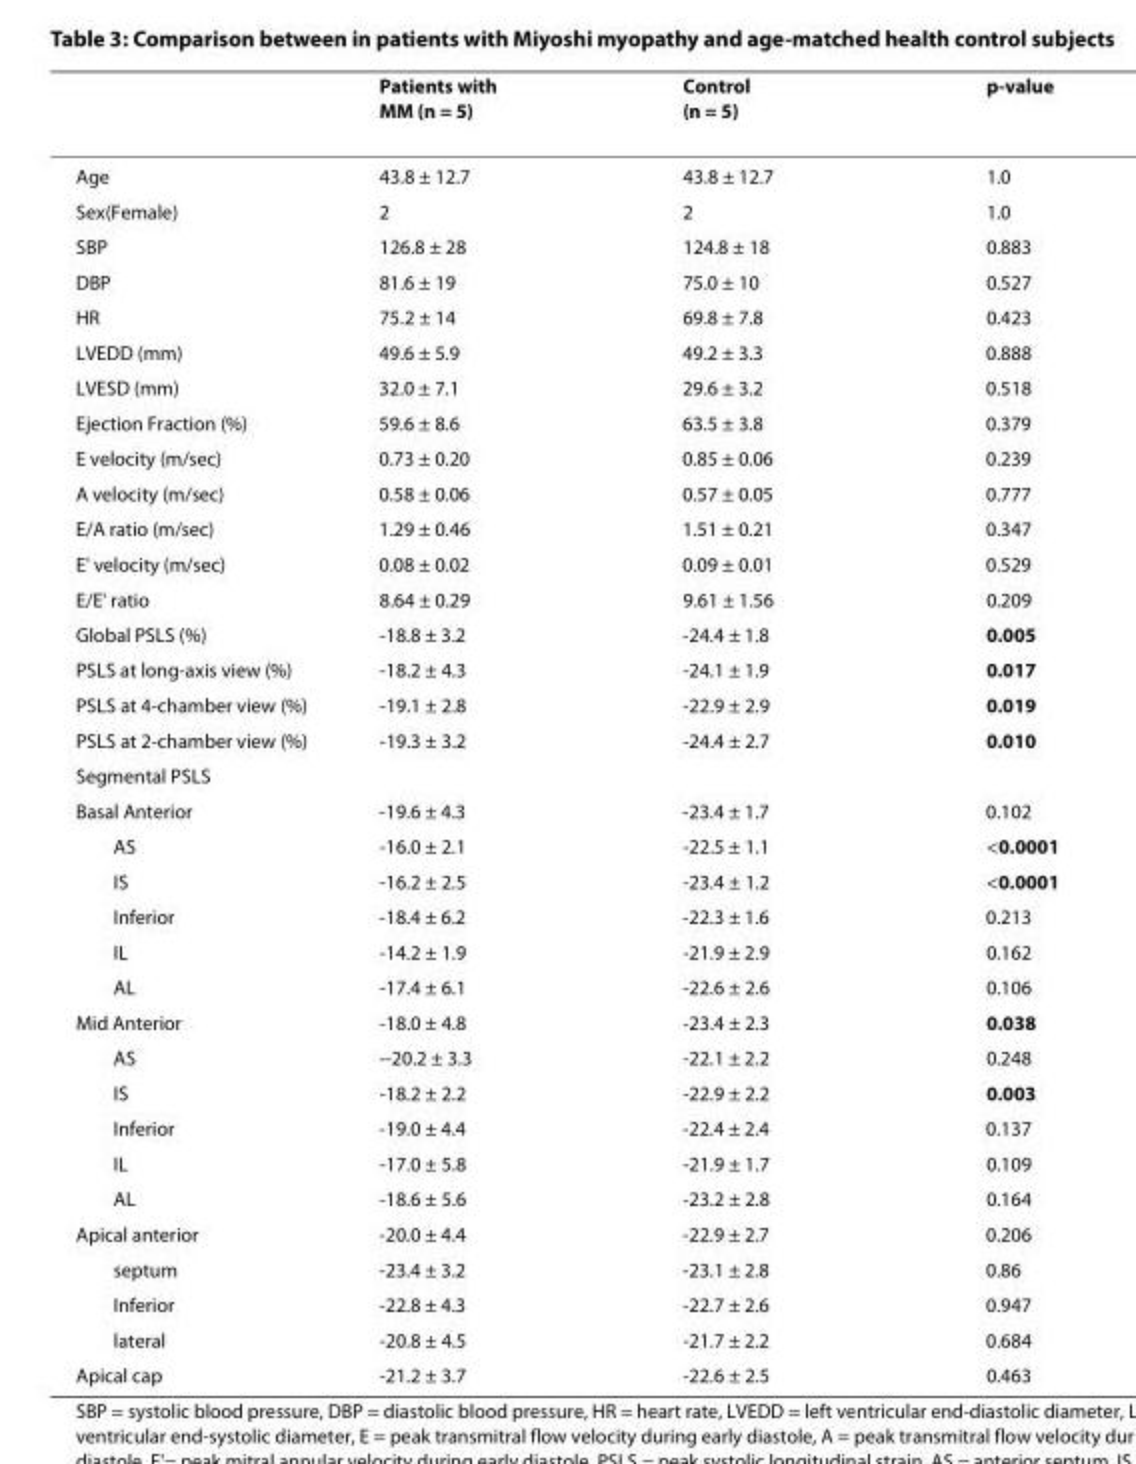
<table><thead><tr><td></td><td>Patients with MM (n = 5)</td><td>Control (n = 5)</td><td>p-value</td></tr></thead><tbody><tr><td>Age</td><td>43.8 ± 12.7</td><td>43.8 ± 12.7</td><td>1.0</td></tr><tr><td>Sex(Female)</td><td>2</td><td>2</td><td>1.0</td></tr><tr><td>SBP</td><td>126.8 ± 28</td><td>124.8 ± 18</td><td>0.883</td></tr><tr><td>DBP</td><td>81.6 ± 19</td><td>75.0 ± 10</td><td>0.527</td></tr><tr><td>HR</td><td>75.2 ± 14</td><td>69.8 ± 7.8</td><td>0.423</td></tr><tr><td>LVEDD (mm)</td><td>49.6 ± 5.9</td><td>49.2 ± 3.3</td><td>0.888</td></tr><tr><td>LVESD (mm)</td><td>32.0 ± 7.1</td><td>29.6 ± 3.2</td><td>0.518</td></tr><tr><td>Ejection Fraction (%)</td><td>59.6 ± 8.6</td><td>63.5 ± 3.8</td><td>0.379</td></tr><tr><td>E velocity (m/sec)</td><td>0.73 ± 0.20</td><td>0.85 ± 0.06</td><td>0.239</td></tr><tr><td>A velocity (m/sec)</td><td>0.58 ± 0.06</td><td>0.57 ± 0.05</td><td>0.777</td></tr><tr><td>E/A ratio (m/sec)</td><td>1.29 ± 0.46</td><td>1.51 ± 0.21</td><td>0.347</td></tr><tr><td>E&#x27; velocity (m/sec)</td><td>0.08 ± 0.02</td><td>0.09 ± 0.01</td><td>0.529</td></tr><tr><td>E/E&#x27; ratio</td><td>8.64 ± 0.29</td><td>9.61 ± 1.56</td><td>0.209</td></tr><tr><td>Global PSLS (%)</td><td>-18.8 ± 3.2</td><td>-24.4 ± 1.8</td><td>0.005</td></tr><tr><td>PSLS at long-axis view (%)</td><td>-18.2 ± 4.3</td><td>-24.1 ± 1.9</td><td>0.017</td></tr><tr><td>PSLS at 4-chamber view (%)</td><td>-19.1 ± 2.8</td><td>-22.9 ± 2.9</td><td>0.019</td></tr><tr><td>PSLS at 2-chamber view (%)</td><td>-19.3 ± 3.2</td><td>-24.4 ± 2.7</td><td>0.010</td></tr><tr><td colspan="4">Segmental PSLS</td></tr><tr><td>Basal Anterior</td><td>-19.6 ± 4.3</td><td>-23.4 ± 1.7</td><td>0.102</td></tr><tr><td>AS</td><td>-16.0 ± 2.1</td><td>-22.5 ± 1.1</td><td>&lt;0.0001</td></tr><tr><td>IS</td><td>-16.2 ± 2.5</td><td>-23.4 ± 1.2</td><td>&lt;0.0001</td></tr><tr><td>Inferior</td><td>-18.4 ± 6.2</td><td>-22.3 ± 1.6</td><td>0.213</td></tr><tr><td>IL</td><td>-14.2 ± 1.9</td><td>-21.9 ± 2.9</td><td>0.162</td></tr><tr><td>AL</td><td>-17.4 ± 6.1</td><td>-22.6 ± 2.6</td><td>0.106</td></tr><tr><td>Mid Anterior</td><td>-18.0 ± 4.8</td><td>-23.4 ± 2.3</td><td>0.038</td></tr><tr><td>AS</td><td>--20.2 ± 3.3</td><td>-22.1 ± 2.2</td><td>0.248</td></tr><tr><td>IS</td><td>-18.2 ± 2.2</td><td>-22.9 ± 2.2</td><td>0.003</td></tr><tr><td>Inferior</td><td>-19.0 ± 4.4</td><td>-22.4 ± 2.4</td><td>0.137</td></tr><tr><td>IL</td><td>-17.0 ± 5.8</td><td>-21.9 ± 1.7</td><td>0.109</td></tr><tr><td>AL</td><td>-18.6 ± 5.6</td><td>-23.2 ± 2.8</td><td>0.164</td></tr><tr><td>Apical anterior</td><td>-20.0 ± 4.4</td><td>-22.9 ± 2.7</td><td>0.206</td></tr><tr><td>septum</td><td>-23.4 ± 3.2</td><td>-23.1 ± 2.8</td><td>0.86</td></tr><tr><td>Inferior</td><td>-22.8 ± 4.3</td><td>-22.7 ± 2.6</td><td>0.947</td></tr><tr><td>lateral</td><td>-20.8 ± 4.5</td><td>-21.7 ± 2.2</td><td>0.684</td></tr><tr><td>Apical cap</td><td>-21.2 ± 3.7</td><td>-22.6 ± 2.5</td><td>0.463</td></tr></tbody></table>